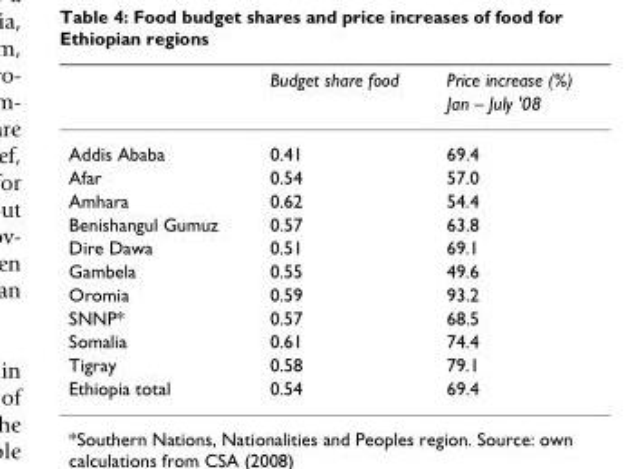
<table><thead><tr><td rowspan="2"></td><td rowspan="2">Budget share food</td><td rowspan="2">Price increase (%) Jan – July &#x27;08</td></tr><tr></tr></thead><tbody><tr><td>Addis Ababa</td><td>0.41</td><td>69.4</td></tr><tr><td>Afar</td><td>0.54</td><td>57.0</td></tr><tr><td>Amhara</td><td>0.62</td><td>54.4</td></tr><tr><td>Benishangul Gumuz</td><td>0.57</td><td>63.8</td></tr><tr><td>Dire Dawa</td><td>0.51</td><td>69.1</td></tr><tr><td>Gambela</td><td>0.55</td><td>49.6</td></tr><tr><td>Oromia</td><td>0.59</td><td>93.2</td></tr><tr><td>SNNP*</td><td>0.57</td><td>68.5</td></tr><tr><td>Somalia</td><td>0.61</td><td>74.4</td></tr><tr><td>Tigray</td><td>0.58</td><td>79.1</td></tr><tr><td>Ethiopia total</td><td>0.54</td><td>69.4</td></tr></tbody></table>